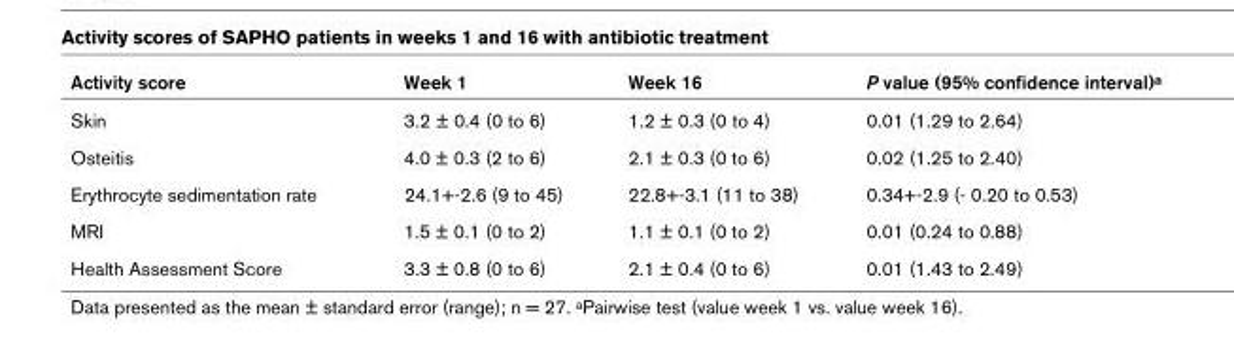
<table><thead><tr><td>Activity score</td><td>Week 1</td><td>Week 16</td><td>P value (95% confidence interval)<sup>a</sup></td></tr></thead><tbody><tr><td>Skin</td><td>3.2 ± 0.4 (0 to 6)</td><td>1.2 ± 0.3 (0 to 4)</td><td>0.01 (1.29 to 2.64)</td></tr><tr><td>Osteitis</td><td>4.0 ± 0.3 (2 to 6)</td><td>2.1 ± 0.3 (0 to 6)</td><td>0.02 (1.25 to 2.40)</td></tr><tr><td>Erythrocyte sedimentation rate</td><td>24.1+-2.6 (9 to 45)</td><td>22.8+-3.1 (11 to 38)</td><td>0.34+-2.9 (- 0.20 to 0.53)</td></tr><tr><td>MRI</td><td>1.5 ± 0.1 (0 to 2)</td><td>1.1 ± 0.1 (0 to 2)</td><td>0.01 (0.24 to 0.88)</td></tr><tr><td>Health Assessment Score</td><td>3.3 ± 0.8 (0 to 6)</td><td>2.1 ± 0.4 (0 to 6)</td><td>0.01 (1.43 to 2.49)</td></tr></tbody></table>